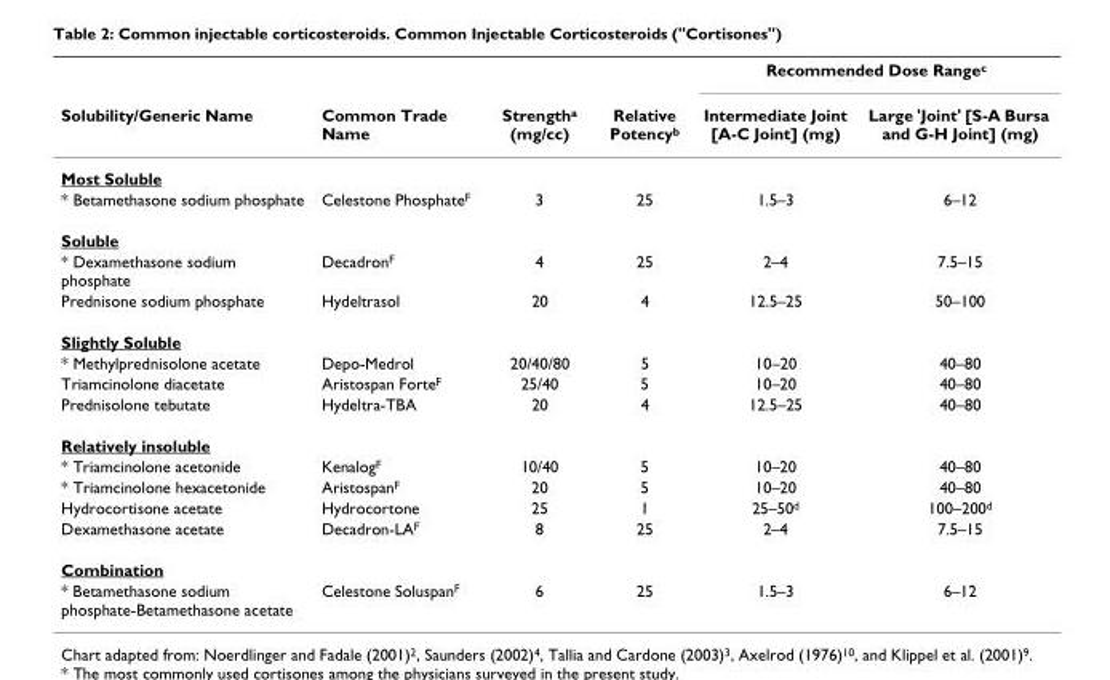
<table><thead><tr><td rowspan="2">Solubility/Generic Name</td><td rowspan="2">Common Trade Name</td><td rowspan="2">Strength<sup>a</sup> (mg/cc)</td><td rowspan="2">Relative Potency<sup>b</sup></td><td colspan="2">Recommended Dose Range<sup>c</sup></td></tr><tr><td>Intermediate Joint [A-C Joint] (mg)</td><td>Large &#x27;Joint&#x27; [S-A Bursa and G-H Joint] (mg)</td></tr></thead><tbody><tr><td colspan="6">Most Soluble</td></tr><tr><td>* Betamethasone sodium phosphate</td><td>Celestone Phosphate<sup>F</sup></td><td>3</td><td>25</td><td>1.5–3</td><td>6–12</td></tr><tr><td colspan="6">Soluble</td></tr><tr><td>* Dexamethasone sodium phosphate</td><td>Decadron<sup>F</sup></td><td>4</td><td>25</td><td>2–4</td><td>7.5–15</td></tr><tr><td>Prednisone sodium phosphate</td><td>Hydeltrasol</td><td>20</td><td>4</td><td>12.5–25</td><td>50–100</td></tr><tr><td colspan="6">Slightly Soluble</td></tr><tr><td>* Methylprednisolone acetate</td><td>Depo-Medrol</td><td>20/40/80</td><td>5</td><td>10–20</td><td>40–80</td></tr><tr><td>Triamcinolone diacetate</td><td>Aristospan Forte<sup>F</sup></td><td>25/40</td><td>5</td><td>10–20</td><td>40–80</td></tr><tr><td>Prednisolone tebutate</td><td>Hydeltra-TBA</td><td>20</td><td>4</td><td>12.5–25</td><td>40–80</td></tr><tr><td colspan="6">Relatively insoluble</td></tr><tr><td>* Triamcinolone acetonide</td><td>Kenalog<sup>F</sup></td><td>10/40</td><td>5</td><td>10–20</td><td>40–80</td></tr><tr><td>* Triamcinolone hexacetonide</td><td>Aristospan<sup>F</sup></td><td>20</td><td>5</td><td>10–20</td><td>40–80</td></tr><tr><td>Hydrocortisone acetate</td><td>Hydrocortone</td><td>25</td><td>1</td><td>25–50<sup>d</sup></td><td>100–200<sup>d</sup></td></tr><tr><td>Dexamethasone acetate</td><td>Decadron-LA<sup>F</sup></td><td>8</td><td>25</td><td>2–4</td><td>7.5–15</td></tr><tr><td colspan="6">Combination</td></tr><tr><td>* Betamethasone sodium phosphate-Betamethasone acetate</td><td>Celestone Soluspan<sup>F</sup></td><td>6</td><td>25</td><td>1.5–3</td><td>6–12</td></tr></tbody></table>